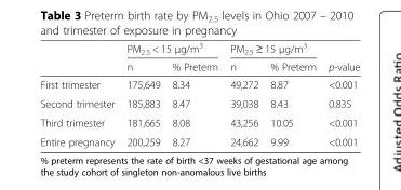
<table><thead><tr><td rowspan="2"></td><td colspan="2">PM<sub>2.5</sub> &lt; 15 μg/m<sup>3</sup></td><td colspan="2">PM<sub>2.5</sub> ≥ 15 μg/m<sup>3</sup></td><td rowspan="2">p-value</td></tr><tr><td>n</td><td>% Preterm</td><td>n</td><td>% Preterm</td></tr></thead><tbody><tr><td>First trimester</td><td>175,649</td><td>8.34</td><td>49,272</td><td>8.87</td><td>&lt;0.001</td></tr><tr><td>Second trimester</td><td>185,883</td><td>8.47</td><td>39,038</td><td>8.43</td><td>0.835</td></tr><tr><td>Third trimester</td><td>181,665</td><td>8.08</td><td>43,256</td><td>10.05</td><td>&lt;0.001</td></tr><tr><td>Entire pregnancy</td><td>200,259</td><td>8.27</td><td>24,662</td><td>9.99</td><td>&lt;0.001</td></tr></tbody></table>